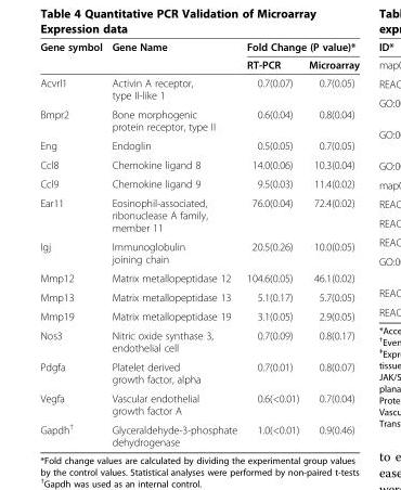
<table><thead><tr><td rowspan="2">Gene symbol</td><td rowspan="2">Gene Name</td><td colspan="2">Fold Change (P value)*</td></tr><tr><td>RT-PCR</td><td>Microarray</td></tr></thead><tbody><tr><td>Acvrl1</td><td>Activin A receptor, type II-like 1</td><td>0.7(0.07)</td><td>0.7(0.05)</td></tr><tr><td>Bmpr2</td><td>Bone morphogenic protein receptor, type II</td><td>0.6(0.04)</td><td>0.8(0.04)</td></tr><tr><td>Eng</td><td>Endoglin</td><td>0.5(0.05)</td><td>0.7(0.05)</td></tr><tr><td>Ccl8</td><td>Chemokine ligand 8</td><td>14.0(0.06)</td><td>10.3(0.04)</td></tr><tr><td>Ccl9</td><td>Chemokine ligand 9</td><td>9.5(0.03)</td><td>11.4(0.02)</td></tr><tr><td>Ear11</td><td>Eosinophil-associated, ribonuclease A family, member 11</td><td>76.0(0.04)</td><td>72.4(0.02)</td></tr><tr><td>Igj</td><td>Immunoglobulin joining chain</td><td>20.5(0.26)</td><td>10.0(0.05)</td></tr><tr><td>Mmp12</td><td>Matrix metallopeptidase 12</td><td>104.6(0.05)</td><td>46.1(0.02)</td></tr><tr><td>Mmp13</td><td>Matrix metallopeptidase 13</td><td>5.1(0.17)</td><td>5.7(0.05)</td></tr><tr><td>Mmp19</td><td>Matrix metallopeptidase 19</td><td>3.1(0.05)</td><td>2.9(0.05)</td></tr><tr><td>Nos3</td><td>Nitric oxide synthase 3, endothelial cell</td><td>0.7(0.09)</td><td>0.8(0.17)</td></tr><tr><td>Pdgfa</td><td>Platelet derived growth factor, alpha</td><td>0.7(0.01)</td><td>0.8(0.07)</td></tr><tr><td>Vegfa</td><td>Vascular endothelial growth factor A</td><td>0.6(&lt;0.01)</td><td>0.7(0.04)</td></tr><tr><td>Gapdh<sup>†</sup></td><td>Glyceraldehyde-3-phosphate dehydrogenase</td><td>1.0(&lt;0.01)</td><td>0.9(0.46)</td></tr></tbody></table>